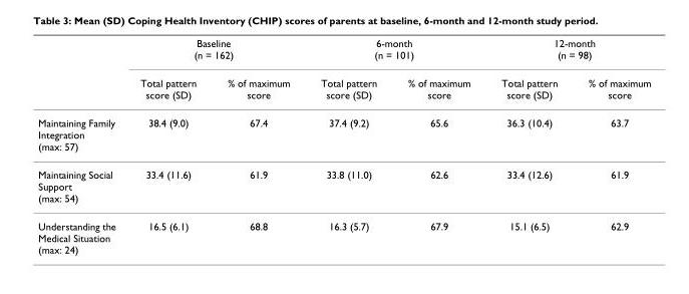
<table><thead><tr><td rowspan="2"></td><td colspan="2">Baseline (n = 162)</td><td colspan="2">6-month (n = 101)</td><td colspan="2">12-month (n = 98)</td></tr><tr><td>Total pattern score (SD)</td><td>% of maximum score</td><td>Total pattern score (SD)</td><td>% of maximum score</td><td>Total pattern score (SD)</td><td>% of maximum score</td></tr></thead><tbody><tr><td>Maintaining Family Integration (max: 57)</td><td>38.4 (9.0)</td><td>67.4</td><td>37.4 (9.2)</td><td>65.6</td><td>36.3 (10.4)</td><td>63.7</td></tr><tr><td>Maintaining Social Support (max: 54)</td><td>33.4 (11.6)</td><td>61.9</td><td>33.8 (11.0)</td><td>62.6</td><td>33.4 (12.6)</td><td>61.9</td></tr><tr><td>Understanding the Medical Situation (max: 24)</td><td>16.5 (6.1)</td><td>68.8</td><td>16.3 (5.7)</td><td>67.9</td><td>15.1 (6.5)</td><td>62.9</td></tr></tbody></table>